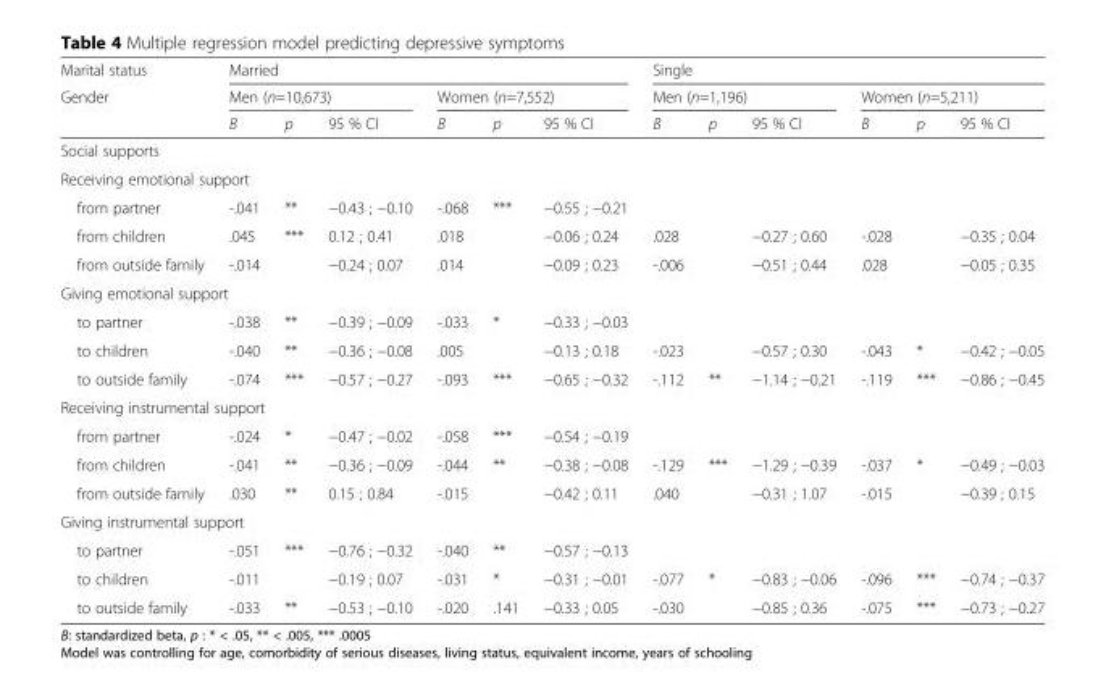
<table><thead><tr><td rowspan="3">Marital status Gender</td><td colspan="6">Married</td><td colspan="6">Single</td></tr><tr><td colspan="3">Men (n=10,673)</td><td colspan="3">Women (n=7,552)</td><td colspan="3">Men (n=1,196)</td><td colspan="3">Women (n=5,211)</td></tr><tr><td>B</td><td>p</td><td>95 % CI</td><td>B</td><td>p</td><td>95 % CI</td><td>B</td><td>p</td><td>95 % CI</td><td>B</td><td>p</td><td>95 % CI</td></tr></thead><tbody><tr><td colspan="13">Social supports</td></tr><tr><td colspan="13">Receiving emotional support</td></tr><tr><td>from partner</td><td>-.041</td><td>**</td><td>−0.43 ; −0.10</td><td>-.068</td><td>***</td><td>−0.55 ; −0.21</td><td></td><td></td><td></td><td></td><td></td><td></td></tr><tr><td>from children</td><td>.045</td><td>***</td><td>0.12 ; 0.41</td><td>.018</td><td></td><td>−0.06 ; 0.24</td><td>.028</td><td></td><td>−0.27 ; 0.60</td><td>-.028</td><td></td><td>−0.35 ; 0.04</td></tr><tr><td>from outside family</td><td>-.014</td><td></td><td>−0.24 ; 0.07</td><td>.014</td><td></td><td>−0.09 ; 0.23</td><td>-.006</td><td></td><td>−0.51 ; 0.44</td><td>.028</td><td></td><td>−0.05 ; 0.35</td></tr><tr><td colspan="13">Giving emotional support</td></tr><tr><td>to partner</td><td>-.038</td><td>**</td><td>−0.39 ; −0.09</td><td>-.033</td><td>*</td><td>−0.33 ; −0.03</td><td></td><td></td><td></td><td></td><td></td><td></td></tr><tr><td>to children</td><td>-.040</td><td>**</td><td>−0.36 ; −0.08</td><td>.005</td><td></td><td>−0.13 ; 0.18</td><td>-.023</td><td></td><td>−0.57 ; 0.30</td><td>-.043</td><td>*</td><td>−0.42 ; −0.05</td></tr><tr><td>to outside family</td><td>-.074</td><td>***</td><td>−0.57 ; −0.27</td><td>-.093</td><td>***</td><td>−0.65 ; −0.32</td><td>-.112</td><td>**</td><td>−1.14 ; −0.21</td><td>-.119</td><td>***</td><td>−0.86 ; −0.45</td></tr><tr><td colspan="13">Receiving instrumental support</td></tr><tr><td>from partner</td><td>-.024</td><td>*</td><td>−0.47 ; −0.02</td><td>-.058</td><td>***</td><td>−0.54 ; −0.19</td><td></td><td></td><td></td><td></td><td></td><td></td></tr><tr><td>from children</td><td>-.041</td><td>**</td><td>−0.36 ; −0.09</td><td>-.044</td><td>**</td><td>−0.38 ; −0.08</td><td>-.129</td><td>***</td><td>−1.29 ; −0.39</td><td>-.037</td><td>*</td><td>−0.49 ; −0.03</td></tr><tr><td>from outside family</td><td>.030</td><td>**</td><td>0.15 ; 0.84</td><td>-.015</td><td></td><td>−0.42 ; 0.11</td><td>.040</td><td></td><td>−0.31 ; 1.07</td><td>-.015</td><td></td><td>−0.39 ; 0.15</td></tr><tr><td colspan="13">Giving instrumental support</td></tr><tr><td>to partner</td><td>-.051</td><td>***</td><td>−0.76 ; −0.32</td><td>-.040</td><td>**</td><td>−0.57 ; −0.13</td><td></td><td></td><td></td><td></td><td></td><td></td></tr><tr><td>to children</td><td>-.011</td><td></td><td>−0.19 ; 0.07</td><td>-.031</td><td>*</td><td>−0.31 ; −0.01</td><td>-.077</td><td>*</td><td>−0.83 ; −0.06</td><td>-.096</td><td>***</td><td>−0.74 ; −0.37</td></tr><tr><td>to outside family</td><td>-.033</td><td>**</td><td>−0.53 ; −0.10</td><td>-.020</td><td>.141</td><td>−0.33 ; 0.05</td><td>-.030</td><td></td><td>−0.85 ; 0.36</td><td>-.075</td><td>***</td><td>−0.73 ; −0.27</td></tr></tbody></table>